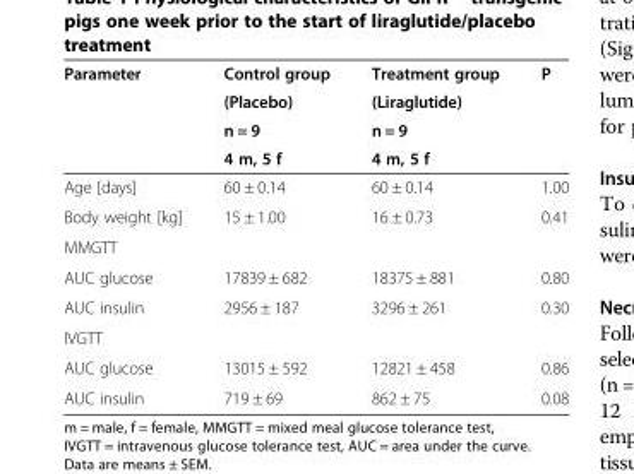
<table><thead><tr><td rowspan="4">Parameter</td><td rowspan="4">Control group (Placebo) n = 9 4 m, 5 f</td><td rowspan="4">Treatment group (Liraglutide) n = 9 4 m, 5 f</td><td rowspan="4">P</td></tr><tr></tr><tr></tr><tr></tr></thead><tbody><tr><td>Age [days]</td><td>60 ± 0.14</td><td>60 ± 0.14</td><td>1.00</td></tr><tr><td>Body weight [kg]</td><td>15 ± 1.00</td><td>16 ± 0.73</td><td>0.41</td></tr><tr><td colspan="4">MMGTT</td></tr><tr><td>AUC glucose</td><td>17839 ± 682</td><td>18375 ± 881</td><td>0.80</td></tr><tr><td>AUC insulin</td><td>2956 ± 187</td><td>3296 ± 261</td><td>0.30</td></tr><tr><td colspan="4">IVGTT</td></tr><tr><td>AUC glucose</td><td>13015 ± 592</td><td>12821 ± 458</td><td>0.86</td></tr><tr><td>AUC insulin</td><td>719 ± 69</td><td>862 ± 75</td><td>0.08</td></tr></tbody></table>